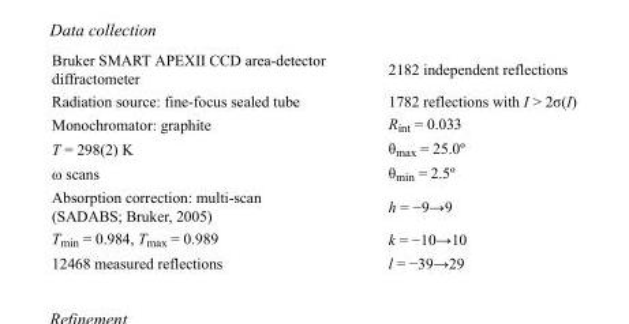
<table><tbody><tr><td>Bruker SMART APEXII CCD area-detector diffractometer</td><td>2182 independent reflections</td></tr><tr><td>Radiation source: fine-focus sealed tube</td><td>1782 reflections with I &gt; 2σ(I)</td></tr><tr><td>Monochromator: graphite</td><td>R<sub>int</sub> = 0.033</td></tr><tr><td>T = 298(2) K</td><td>θ<sub>max</sub> = 25.0º</td></tr><tr><td>ω scans</td><td>θ<sub>min</sub> = 2.5º</td></tr><tr><td>Absorption correction: multi-scan (SADABS; Bruker, 2005)</td><td>h = −9→9</td></tr><tr><td>T<sub>min</sub> = 0.984, T<sub>max</sub> = 0.989</td><td>k = −10→10</td></tr><tr><td>12468 measured reflections</td><td>l = −39→29</td></tr></tbody></table>